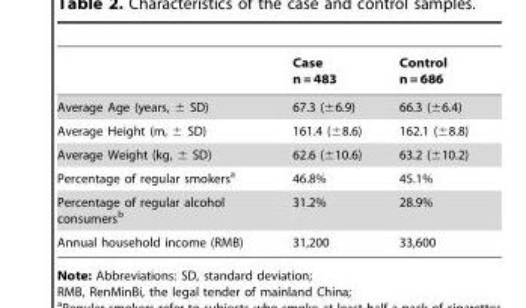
<table><thead><tr><td></td><td>Case n = 483</td><td>Control n = 686</td></tr></thead><tbody><tr><td>Average Age (years, ± SD)</td><td>67.3 (±6.9)</td><td>66.3 (±6.4)</td></tr><tr><td>Average Height (m, ± SD)</td><td>161.4 (±8.6)</td><td>162.1 (±8.8)</td></tr><tr><td>Average Weight (kg, ± SD)</td><td>62.6 (±10.6)</td><td>63.2 (±10.2)</td></tr><tr><td>Percentage of regular smokers<sup>a</sup></td><td>46.8%</td><td>45.1%</td></tr><tr><td>Percentage of regular alcohol consumers<sup>b</sup></td><td>31.2%</td><td>28.9%</td></tr><tr><td>Annual household income (RMB)</td><td>31,200</td><td>33,600</td></tr></tbody></table>